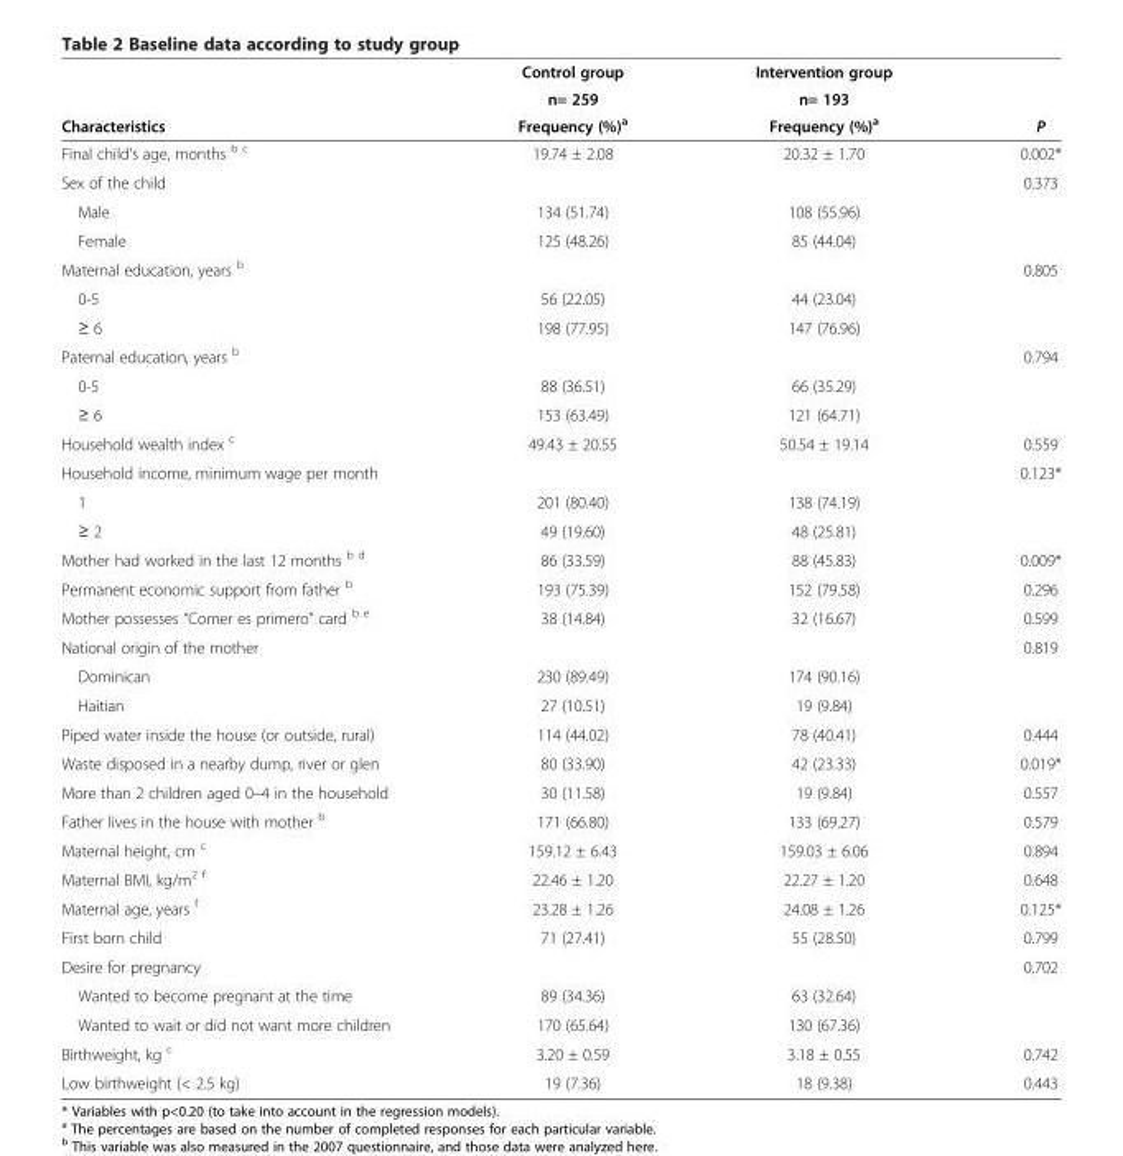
<table><thead><tr><td rowspan="3">Characteristics</td><td rowspan="3">Control group n= 259 Frequency (%)<sup>a</sup></td><td rowspan="3">Intervention group n= 193 Frequency (%)<sup>a</sup></td><td rowspan="3">P</td></tr><tr></tr><tr></tr></thead><tbody><tr><td>Final child’s age, months <sup>b c</sup></td><td>19.74 ± 2.08</td><td>20.32 ± 1.70</td><td>0.002*</td></tr><tr><td>Sex of the child</td><td></td><td></td><td>0.373</td></tr><tr><td>Male</td><td>134 (51.74)</td><td>108 (55.96)</td><td></td></tr><tr><td>Female</td><td>125 (48.26)</td><td>85 (44.04)</td><td></td></tr><tr><td>Maternal education, years <sup>b</sup></td><td></td><td></td><td>0.805</td></tr><tr><td>0-5</td><td>56 (22.05)</td><td>44 (23.04)</td><td></td></tr><tr><td>≥ 6</td><td>198 (77.95)</td><td>147 (76.96)</td><td></td></tr><tr><td>Paternal education, years <sup>b</sup></td><td></td><td></td><td>0.794</td></tr><tr><td>0-5</td><td>88 (36.51)</td><td>66 (35.29)</td><td></td></tr><tr><td>≥ 6</td><td>153 (63.49)</td><td>121 (64.71)</td><td></td></tr><tr><td>Household wealth index <sup>c</sup></td><td>49.43 ± 20.55</td><td>50.54 ± 19.14</td><td>0.559</td></tr><tr><td>Household income, minimum wage per month</td><td></td><td></td><td>0.123*</td></tr><tr><td>1</td><td>201 (80.40)</td><td>138 (74.19)</td><td></td></tr><tr><td>≥ 2</td><td>49 (19.60)</td><td>48 (25.81)</td><td></td></tr><tr><td>Mother had worked in the last 12 months <sup>b d</sup></td><td>86 (33.59)</td><td>88 (45.83)</td><td>0.009*</td></tr><tr><td>Permanent economic support from father <sup>b</sup></td><td>193 (75.39)</td><td>152 (79.58)</td><td>0.296</td></tr><tr><td>Mother possesses “Comer es primero” card <sup>b e</sup></td><td>38 (14.84)</td><td>32 (16.67)</td><td>0.599</td></tr><tr><td>National origin of the mother</td><td></td><td></td><td>0.819</td></tr><tr><td>Dominican</td><td>230 (89.49)</td><td>174 (90.16)</td><td></td></tr><tr><td>Haitian</td><td>27 (10.51)</td><td>19 (9.84)</td><td></td></tr><tr><td>Piped water inside the house (or outside, rural)</td><td>114 (44.02)</td><td>78 (40.41)</td><td>0.444</td></tr><tr><td>Waste disposed in a nearby dump, river or glen</td><td>80 (33.90)</td><td>42 (23.33)</td><td>0.019*</td></tr><tr><td>More than 2 children aged 0–4 in the household</td><td>30 (11.58)</td><td>19 (9.84)</td><td>0.557</td></tr><tr><td>Father lives in the house with mother <sup>b</sup></td><td>171 (66.80)</td><td>133 (69.27)</td><td>0.579</td></tr><tr><td>Maternal height, cm <sup>c</sup></td><td>159.12 ± 6.43</td><td>159.03 ± 6.06</td><td>0.894</td></tr><tr><td>Maternal BMI, kg/m<sup>2 f</sup></td><td>22.46 ± 1.20</td><td>22.27 ± 1.20</td><td>0.648</td></tr><tr><td>Maternal age, years <sup>f</sup></td><td>23.28 ± 1.26</td><td>24.08 ± 1.26</td><td>0.125*</td></tr><tr><td>First born child</td><td>71 (27.41)</td><td>55 (28.50)</td><td>0.799</td></tr><tr><td>Desire for pregnancy</td><td></td><td></td><td>0.702</td></tr><tr><td>Wanted to become pregnant at the time</td><td>89 (34.36)</td><td>63 (32.64)</td><td></td></tr><tr><td>Wanted to wait or did not want more children</td><td>170 (65.64)</td><td>130 (67.36)</td><td></td></tr><tr><td>Birthweight, kg <sup>c</sup></td><td>3.20 ± 0.59</td><td>3.18 ± 0.55</td><td>0.742</td></tr><tr><td>Low birthweight (&lt; 2.5 kg)</td><td>19 (7.36)</td><td>18 (9.38)</td><td>0.443</td></tr></tbody></table>